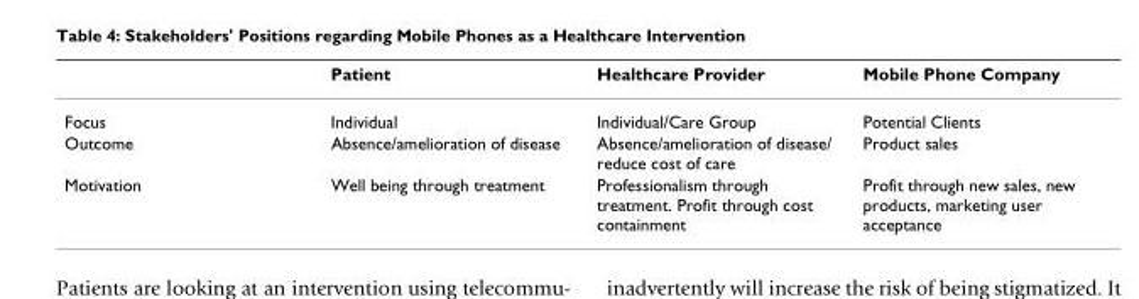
<table><thead><tr><td></td><td>Patient</td><td>Healthcare Provider</td><td>Mobile Phone Company</td></tr></thead><tbody><tr><td>Focus</td><td>Individual</td><td>Individual/Care Group</td><td>Potential Clients</td></tr><tr><td>Outcome</td><td>Absence/amelioration of disease</td><td>Absence/amelioration of disease/ reduce cost of care</td><td>Product sales</td></tr><tr><td>Motivation</td><td>Well being through treatment</td><td>Professionalism through treatment. Profit through cost containment</td><td>Profit through new sales, new products, marketing user acceptance</td></tr></tbody></table>